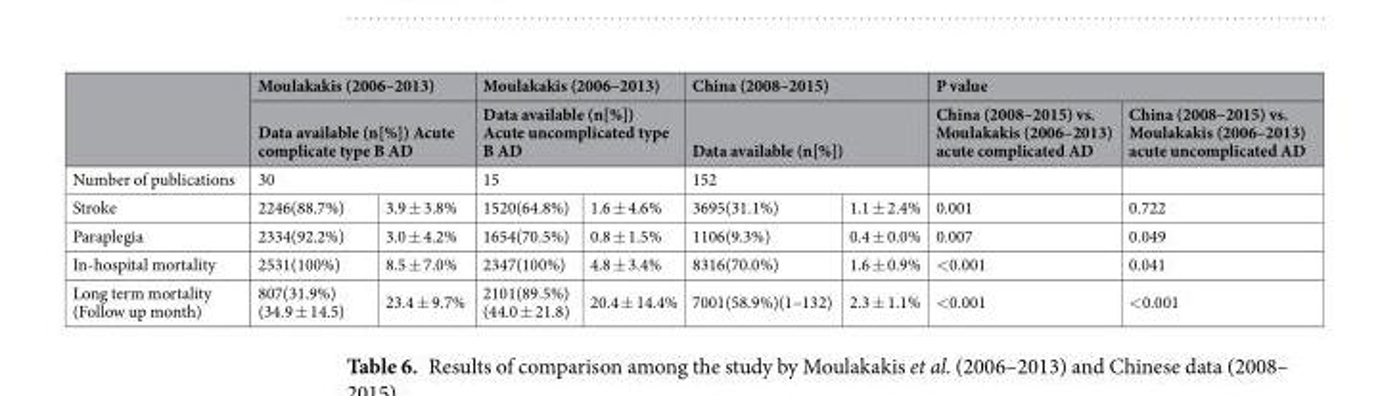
<table><thead><tr><td rowspan="4">Number of publications Stroke</td><td rowspan="3" colspan="2">Moulakakis (2006–2013) Data available (n[%]) Acute complicate type B AD 30</td><td rowspan="3" colspan="2">Moulakakis (2006–2013) Data available (n[%]) Acute uncomplicated type B AD 15</td><td rowspan="3" colspan="2">China (2008–2015) Data available (n[%]) 152</td><td colspan="2">P value</td></tr><tr><td rowspan="3">China (2008–2015) vs. Moulakakis (2006–2013) acute complicated AD 0.001</td><td rowspan="3">China (2008–2015) vs. Moulakakis (2006–2013) acute uncomplicated AD 0.722</td></tr><tr></tr><tr><td>2246(88.7%)</td><td>3.9 ± 3.8%</td><td>1520(64.8%)</td><td>1.6 ± 4.6%</td><td>3695(31.1%)</td><td>1.1 ± 2.4%</td></tr></thead><tbody><tr><td>Paraplegia</td><td>2334(92.2%)</td><td>3.0 ± 4.2%</td><td>1654(70.5%)</td><td>0.8 ± 1.5%</td><td>1106(9.3%)</td><td>0.4 ± 0.0%</td><td>0.007</td><td>0.049</td></tr><tr><td>In-hospital mortality</td><td>2531(100%)</td><td>8.5 ± 7.0%</td><td>2347(100%)</td><td>4.8 ± 3.4%</td><td>8316(70.0%)</td><td>1.6 ± 0.9%</td><td>&lt;0.001</td><td>0.041</td></tr><tr><td>Long term mortality (Follow up month)</td><td>807(31.9%) (34.9 ± 14.5)</td><td>23.4 ± 9.7%</td><td>2101(89.5%) (44.0 ± 21.8)</td><td>20.4 ± 14.4%</td><td>7001(58.9%)(1–132)</td><td>2.3 ± 1.1%</td><td>&lt;0.001</td><td>&lt;0.001</td></tr></tbody></table>